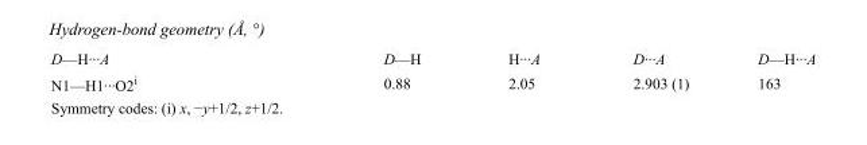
<table><tbody><tr><td>D—H···A</td><td>D—H</td><td>H···A</td><td>D···A</td><td>D—H···A</td></tr><tr><td>N1—H1···O2<sup>i</sup></td><td>0.88</td><td>2.05</td><td>2.903 (1)</td><td>163</td></tr></tbody></table>